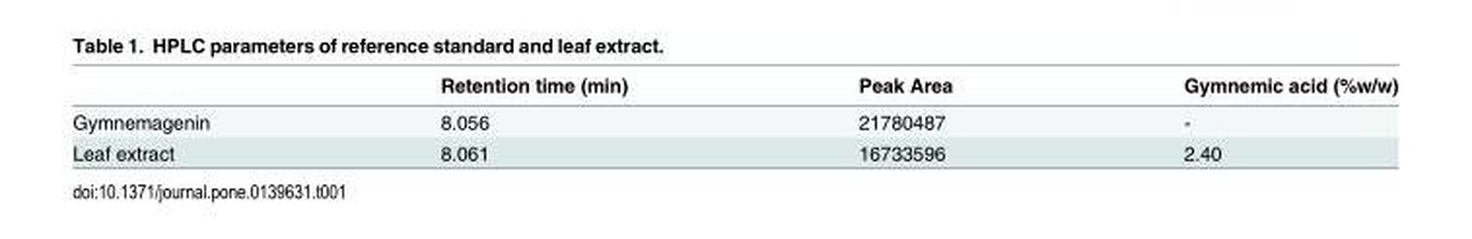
<table><thead><tr><td></td><td>Retention time (min)</td><td>Peak Area</td><td>Gymnemic acid (%w/w)</td></tr></thead><tbody><tr><td>Gymnemagenin</td><td>8.056</td><td>21780487</td><td>-</td></tr><tr><td>Leaf extract</td><td>8.061</td><td>16733596</td><td>2.40</td></tr></tbody></table>